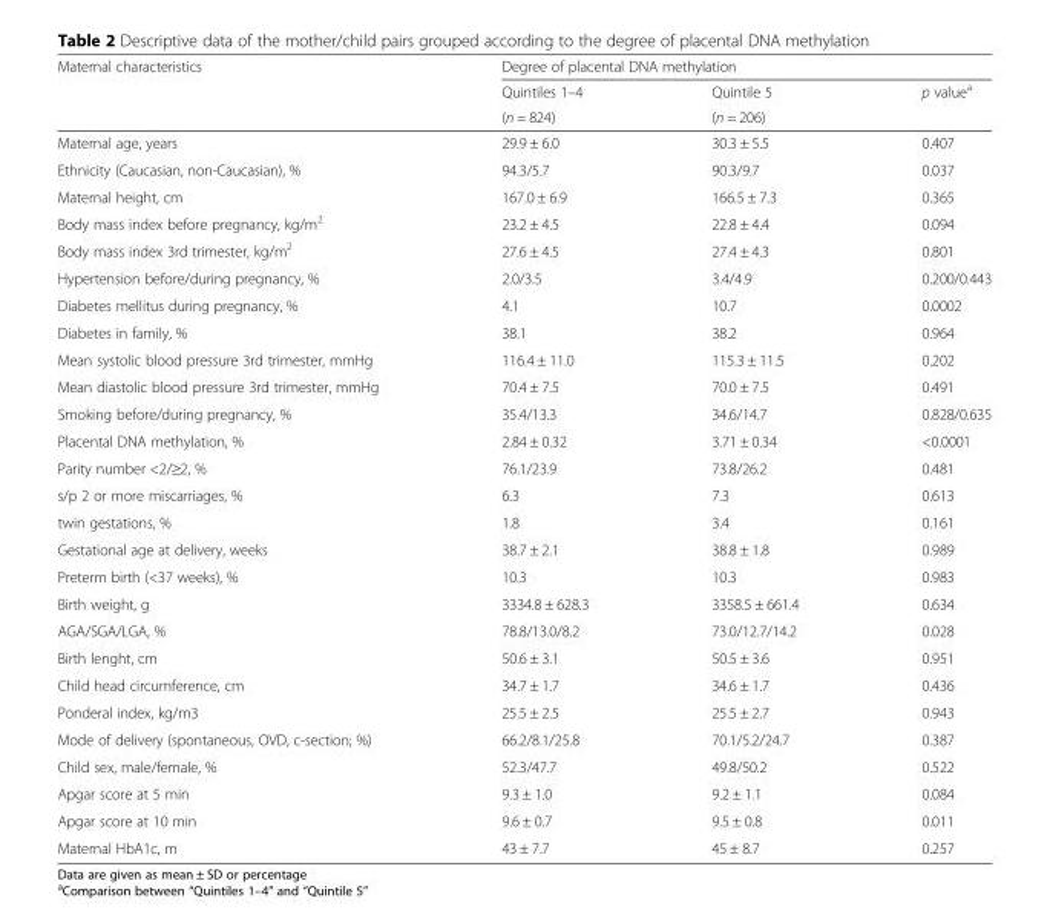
<table><thead><tr><td rowspan="3">Maternal characteristics</td><td colspan="3">Degree of placental DNA methylation</td></tr><tr><td rowspan="2">Quintiles 1–4 (n = 824)</td><td rowspan="2">Quintile 5 (n = 206)</td><td rowspan="2">p value<sup>a</sup></td></tr><tr></tr></thead><tbody><tr><td>Maternal age, years</td><td>29.9 ± 6.0</td><td>30.3 ± 5.5</td><td>0.407</td></tr><tr><td>Ethnicity (Caucasian, non-Caucasian), %</td><td>94.3/5.7</td><td>90.3/9.7</td><td>0.037</td></tr><tr><td>Maternal height, cm</td><td>167.0 ± 6.9</td><td>166.5 ± 7.3</td><td>0.365</td></tr><tr><td>Body mass index before pregnancy, kg/m<sup>2</sup></td><td>23.2 ± 4.5</td><td>22.8 ± 4.4</td><td>0.094</td></tr><tr><td>Body mass index 3rd trimester, kg/m<sup>2</sup></td><td>27.6 ± 4.5</td><td>27.4 ± 4.3</td><td>0.801</td></tr><tr><td>Hypertension before/during pregnancy, %</td><td>2.0/3.5</td><td>3.4/4.9</td><td>0.200/0.443</td></tr><tr><td>Diabetes mellitus during pregnancy, %</td><td>4.1</td><td>10.7</td><td>0.0002</td></tr><tr><td>Diabetes in family, %</td><td>38.1</td><td>38.2</td><td>0.964</td></tr><tr><td>Mean systolic blood pressure 3rd trimester, mmHg</td><td>116.4 ± 11.0</td><td>115.3 ± 11.5</td><td>0.202</td></tr><tr><td>Mean diastolic blood pressure 3rd trimester, mmHg</td><td>70.4 ± 7.5</td><td>70.0 ± 7.5</td><td>0.491</td></tr><tr><td>Smoking before/during pregnancy, %</td><td>35.4/13.3</td><td>34.6/14.7</td><td>0.828/0.635</td></tr><tr><td>Placental DNA methylation, %</td><td>2.84 ± 0.32</td><td>3.71 ± 0.34</td><td>&lt;0.0001</td></tr><tr><td>Parity number &lt;2/≥2, %</td><td>76.1/23.9</td><td>73.8/26.2</td><td>0.481</td></tr><tr><td>s/p 2 or more miscarriages, %</td><td>6.3</td><td>7.3</td><td>0.613</td></tr><tr><td>twin gestations, %</td><td>1.8</td><td>3.4</td><td>0.161</td></tr><tr><td>Gestational age at delivery, weeks</td><td>38.7 ± 2.1</td><td>38.8 ± 1.8</td><td>0.989</td></tr><tr><td>Preterm birth (&lt;37 weeks), %</td><td>10.3</td><td>10.3</td><td>0.983</td></tr><tr><td>Birth weight, g</td><td>3334.8 ± 628.3</td><td>3358.5 ± 661.4</td><td>0.634</td></tr><tr><td>AGA/SGA/LGA, %</td><td>78.8/13.0/8.2</td><td>73.0/12.7/14.2</td><td>0.028</td></tr><tr><td>Birth lenght, cm</td><td>50.6 ± 3.1</td><td>50.5 ± 3.6</td><td>0.951</td></tr><tr><td>Child head circumference, cm</td><td>34.7 ± 1.7</td><td>34.6 ± 1.7</td><td>0.436</td></tr><tr><td>Ponderal index, kg/m3</td><td>25.5 ± 2.5</td><td>25.5 ± 2.7</td><td>0.943</td></tr><tr><td>Mode of delivery (spontaneous, OVD, c-section; %)</td><td>66.2/8.1/25.8</td><td>70.1/5.2/24.7</td><td>0.387</td></tr><tr><td>Child sex, male/female, %</td><td>52.3/47.7</td><td>49.8/50.2</td><td>0.522</td></tr><tr><td>Apgar score at 5 min</td><td>9.3 ± 1.0</td><td>9.2 ± 1.1</td><td>0.084</td></tr><tr><td>Apgar score at 10 min</td><td>9.6 ± 0.7</td><td>9.5 ± 0.8</td><td>0.011</td></tr><tr><td>Maternal HbA1c, m</td><td>43 ± 7.7</td><td>45 ± 8.7</td><td>0.257</td></tr></tbody></table>